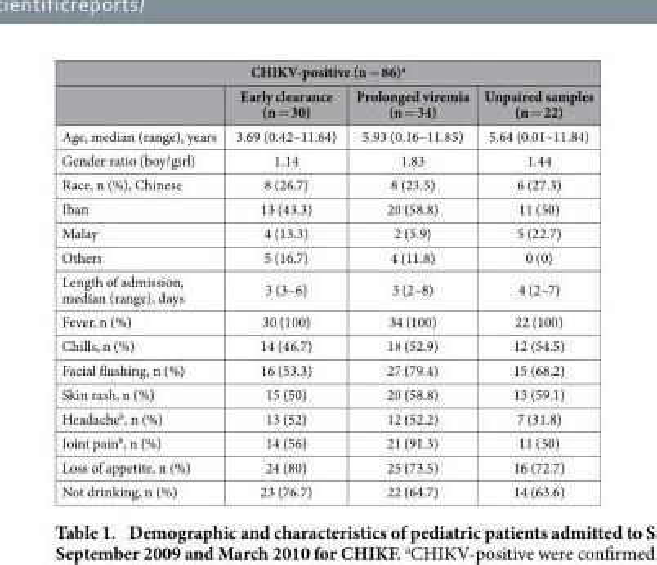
<table><thead><tr><td colspan="4">CHIKV-positive (n = 86)<sup>a</sup></td></tr><tr><td></td><td>Early clearance (n = 30)</td><td>Prolonged viremia (n = 34)</td><td>Unpaired samples (n = 22)</td></tr></thead><tbody><tr><td>Age, median (range), years</td><td>3.69 (0.42–11.64)</td><td>5.93 (0.16–11.85)</td><td>5.64 (0.01–11.84)</td></tr><tr><td>Gender ratio (boy/girl)</td><td>1.14</td><td>1.83</td><td>1.44</td></tr><tr><td>Race, n (%), Chinese</td><td>8 (26.7)</td><td>8 (23.5)</td><td>6 (27.3)</td></tr><tr><td>Iban</td><td>13 (43.3)</td><td>20 (58.8)</td><td>11 (50)</td></tr><tr><td>Malay</td><td>4 (13.3)</td><td>2 (5.9)</td><td>5 (22.7)</td></tr><tr><td>Others</td><td>5 (16.7)</td><td>4 (11.8)</td><td>0 (0)</td></tr><tr><td>Length of admission, median (range), days</td><td>3 (3–6)</td><td>3 (2–8)</td><td>4 (2–7)</td></tr><tr><td>Fever, n (%)</td><td>30 (100)</td><td>34 (100)</td><td>22 (100)</td></tr><tr><td>Chills, n (%)</td><td>14 (46.7)</td><td>18 (52.9)</td><td>12 (54.5)</td></tr><tr><td>Facial flushing, n (%)</td><td>16 (53.3)</td><td>27 (79.4)</td><td>15 (68.2)</td></tr><tr><td>Skin rash, n (%)</td><td>15 (50)</td><td>20 (58.8)</td><td>13 (59.1)</td></tr><tr><td>Headache<sup>b</sup>, n (%)</td><td>13 (52)</td><td>12 (52.2)</td><td>7 (31.8)</td></tr><tr><td>Joint pain<sup>b</sup>, n (%)</td><td>14 (56)</td><td>21 (91.3)</td><td>11 (50)</td></tr><tr><td>Loss of appetite, n (%)</td><td>24 (80)</td><td>25 (73.5)</td><td>16 (72.7)</td></tr><tr><td>Not drinking, n (%)</td><td>23 (76.7)</td><td>22 (64.7)</td><td>14 (63.6)</td></tr></tbody></table>